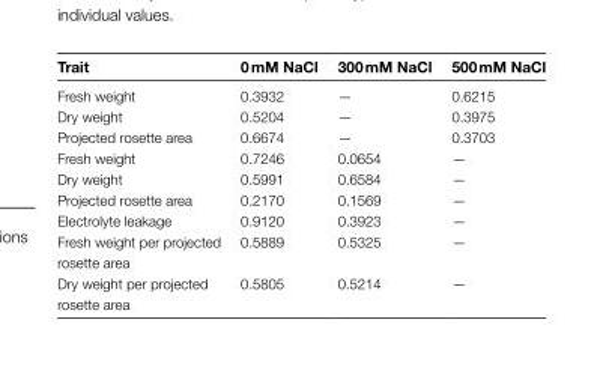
<table><thead><tr><td>Trait</td><td>0 mM NaCl</td><td>300 mM NaCl</td><td>500 mM NaCl</td></tr></thead><tbody><tr><td>Fresh weight</td><td>0.3932</td><td>—</td><td>0.6215</td></tr><tr><td>Dry weight</td><td>0.5204</td><td>—</td><td>0.3975</td></tr><tr><td>Projected rosette area</td><td>0.6674</td><td>—</td><td>0.3703</td></tr><tr><td>Fresh weight</td><td>0.7246</td><td>0.0654</td><td>—</td></tr><tr><td>Dry weight</td><td>0.5991</td><td>0.6584</td><td>—</td></tr><tr><td>Projected rosette area</td><td>0.2170</td><td>0.1569</td><td>—</td></tr><tr><td>Electrolyte leakage</td><td>0.9120</td><td>0.3923</td><td>—</td></tr><tr><td>Fresh weight per projected rosette area</td><td>0.5889</td><td>0.5325</td><td>—</td></tr><tr><td>Dry weight per projected rosette area</td><td>0.5805</td><td>0.5214</td><td>—</td></tr></tbody></table>